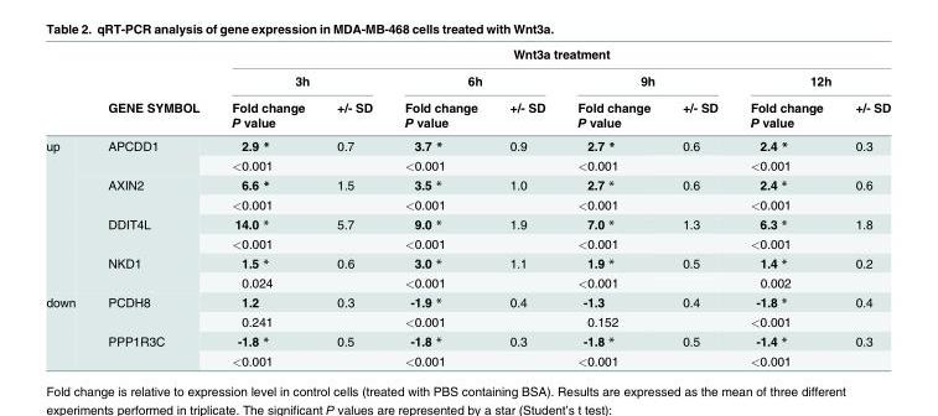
<table><thead><tr><td rowspan="4"></td><td rowspan="4">GENE SYMBOL</td><td colspan="8">Wnt3a treatment</td></tr><tr><td colspan="2">3h</td><td colspan="2">6h</td><td colspan="2">9h</td><td colspan="2">12h</td></tr><tr><td rowspan="2">Fold change P value</td><td rowspan="2">+/- SD</td><td rowspan="2">Fold change P value</td><td rowspan="2">+/- SD</td><td rowspan="2">Fold change P value</td><td rowspan="2">+/- SD</td><td rowspan="2">Fold change P value</td><td rowspan="2">+/- SD</td></tr><tr></tr></thead><tbody><tr><td rowspan="8">up</td><td rowspan="2">APCDD1</td><td>2.9 *</td><td>0.7</td><td>3.7 *</td><td>0.9</td><td>2.7 *</td><td>0.6</td><td>2.4 *</td><td>0.3</td></tr><tr><td>&lt;0.001</td><td></td><td>&lt;0.001</td><td></td><td>&lt;0.001</td><td></td><td>&lt;0.001</td><td></td></tr><tr><td rowspan="2">AXIN2</td><td>6.6 *</td><td>1.5</td><td>3.5 *</td><td>1.0</td><td>2.7 *</td><td>0.6</td><td>2.4 *</td><td>0.6</td></tr><tr><td>&lt;0.001</td><td></td><td>&lt;0.001</td><td></td><td>&lt;0.001</td><td></td><td>&lt;0.001</td><td></td></tr><tr><td rowspan="2">DDIT4L</td><td>14.0 *</td><td>5.7</td><td>9.0 *</td><td>1.9</td><td>7.0 *</td><td>1.3</td><td>6.3 *</td><td>1.8</td></tr><tr><td>&lt;0.001</td><td></td><td>&lt;0.001</td><td></td><td>&lt;0.001</td><td></td><td>&lt;0.001</td><td></td></tr><tr><td rowspan="2">NKD1</td><td>1.5 *</td><td>0.6</td><td>3.0 *</td><td>1.1</td><td>1.9 *</td><td>0.5</td><td>1.4 *</td><td>0.2</td></tr><tr><td>0.024</td><td></td><td>&lt;0.001</td><td></td><td>&lt;0.001</td><td></td><td>0.002</td><td></td></tr><tr><td rowspan="4">down</td><td rowspan="2">PCDH8</td><td>1.2</td><td>0.3</td><td>-1.9 *</td><td>0.4</td><td>-1.3</td><td>0.4</td><td>-1.8 *</td><td>0.4</td></tr><tr><td>0.241</td><td></td><td>&lt;0.001</td><td></td><td>0.152</td><td></td><td>&lt;0.001</td><td></td></tr><tr><td rowspan="2">PPP1R3C</td><td>-1.8 *</td><td>0.5</td><td>-1.8 *</td><td>0.3</td><td>-1.8 *</td><td>0.5</td><td>-1.4 *</td><td>0.3</td></tr><tr><td>&lt;0.001</td><td></td><td>&lt;0.001</td><td></td><td>&lt;0.001</td><td></td><td>&lt;0.001</td><td></td></tr></tbody></table>